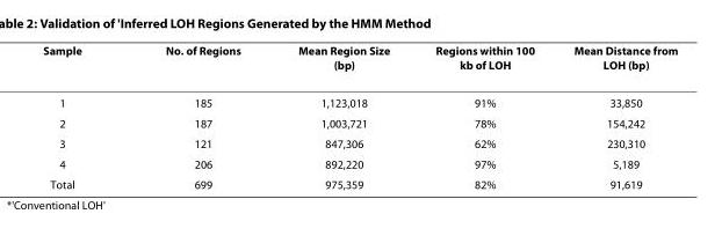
<table><thead><tr><td>Sample</td><td>No. of Regions</td><td>Mean Region Size (bp)</td><td>Regions within 100 kb of LOH</td><td>Mean Distance from LOH (bp)</td></tr></thead><tbody><tr><td>1</td><td>185</td><td>1,123,018</td><td>91%</td><td>33,850</td></tr><tr><td>2</td><td>187</td><td>1,003,721</td><td>78%</td><td>154,242</td></tr><tr><td>3</td><td>121</td><td>847,306</td><td>62%</td><td>230,310</td></tr><tr><td>4</td><td>206</td><td>892,220</td><td>97%</td><td>5,189</td></tr><tr><td>Total</td><td>699</td><td>975,359</td><td>82%</td><td>91,619</td></tr></tbody></table>